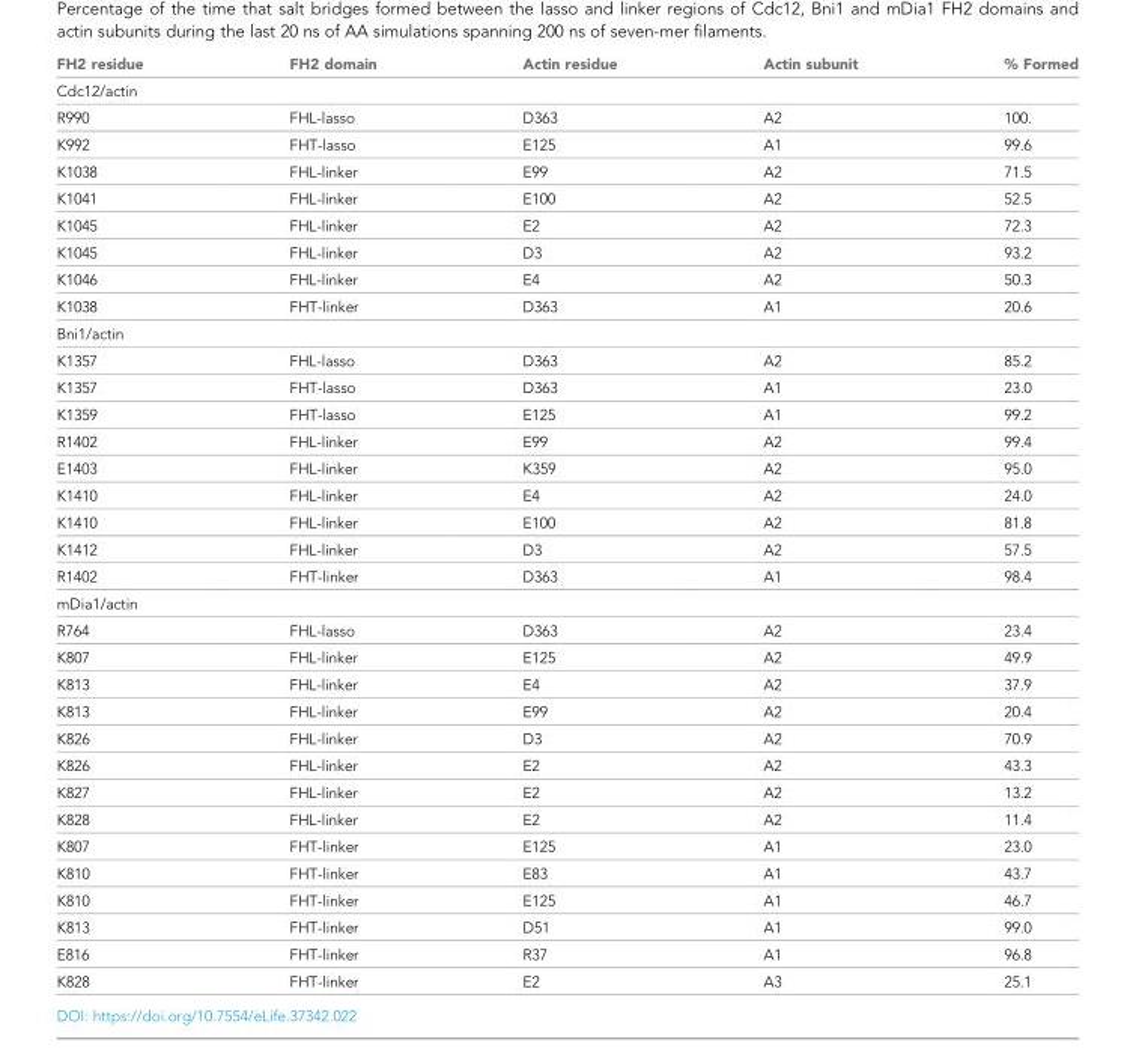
<table><thead><tr><td>FH2 residue</td><td>FH2 domain</td><td>Actin residue</td><td>Actin subunit</td><td>% Formed</td></tr></thead><tbody><tr><td colspan="5">Cdc12/actin</td></tr><tr><td>R990</td><td>FHL-lasso</td><td>D363</td><td>A2</td><td>100.</td></tr><tr><td>K992</td><td>FHT-lasso</td><td>E125</td><td>A1</td><td>99.6</td></tr><tr><td>K1038</td><td>FHL-linker</td><td>E99</td><td>A2</td><td>71.5</td></tr><tr><td>K1041</td><td>FHL-linker</td><td>E100</td><td>A2</td><td>52.5</td></tr><tr><td>K1045</td><td>FHL-linker</td><td>E2</td><td>A2</td><td>72.3</td></tr><tr><td>K1045</td><td>FHL-linker</td><td>D3</td><td>A2</td><td>93.2</td></tr><tr><td>K1046</td><td>FHL-linker</td><td>E4</td><td>A2</td><td>50.3</td></tr><tr><td>K1038</td><td>FHT-linker</td><td>D363</td><td>A1</td><td>20.6</td></tr><tr><td colspan="5">Bni1/actin</td></tr><tr><td>K1357</td><td>FHL-lasso</td><td>D363</td><td>A2</td><td>85.2</td></tr><tr><td>K1357</td><td>FHT-lasso</td><td>D363</td><td>A1</td><td>23.0</td></tr><tr><td>K1359</td><td>FHT-lasso</td><td>E125</td><td>A1</td><td>99.2</td></tr><tr><td>R1402</td><td>FHL-linker</td><td>E99</td><td>A2</td><td>99.4</td></tr><tr><td>E1403</td><td>FHL-linker</td><td>K359</td><td>A2</td><td>95.0</td></tr><tr><td>K1410</td><td>FHL-linker</td><td>E4</td><td>A2</td><td>24.0</td></tr><tr><td>K1410</td><td>FHL-linker</td><td>E100</td><td>A2</td><td>81.8</td></tr><tr><td>K1412</td><td>FHL-linker</td><td>D3</td><td>A2</td><td>57.5</td></tr><tr><td>R1402</td><td>FHT-linker</td><td>D363</td><td>A1</td><td>98.4</td></tr><tr><td colspan="5">mDia1/actin</td></tr><tr><td>R764</td><td>FHL-lasso</td><td>D363</td><td>A2</td><td>23.4</td></tr><tr><td>K807</td><td>FHL-linker</td><td>E125</td><td>A2</td><td>49.9</td></tr><tr><td>K813</td><td>FHL-linker</td><td>E4</td><td>A2</td><td>37.9</td></tr><tr><td>K813</td><td>FHL-linker</td><td>E99</td><td>A2</td><td>20.4</td></tr><tr><td>K826</td><td>FHL-linker</td><td>D3</td><td>A2</td><td>70.9</td></tr><tr><td>K826</td><td>FHL-linker</td><td>E2</td><td>A2</td><td>43.3</td></tr><tr><td>K827</td><td>FHL-linker</td><td>E2</td><td>A2</td><td>13.2</td></tr><tr><td>K828</td><td>FHL-linker</td><td>E2</td><td>A2</td><td>11.4</td></tr><tr><td>K807</td><td>FHT-linker</td><td>E125</td><td>A1</td><td>23.0</td></tr><tr><td>K810</td><td>FHT-linker</td><td>E83</td><td>A1</td><td>43.7</td></tr><tr><td>K810</td><td>FHT-linker</td><td>E125</td><td>A1</td><td>46.7</td></tr><tr><td>K813</td><td>FHT-linker</td><td>D51</td><td>A1</td><td>99.0</td></tr><tr><td>E816</td><td>FHT-linker</td><td>R37</td><td>A1</td><td>96.8</td></tr><tr><td>K828</td><td>FHT-linker</td><td>E2</td><td>A3</td><td>25.1</td></tr></tbody></table>